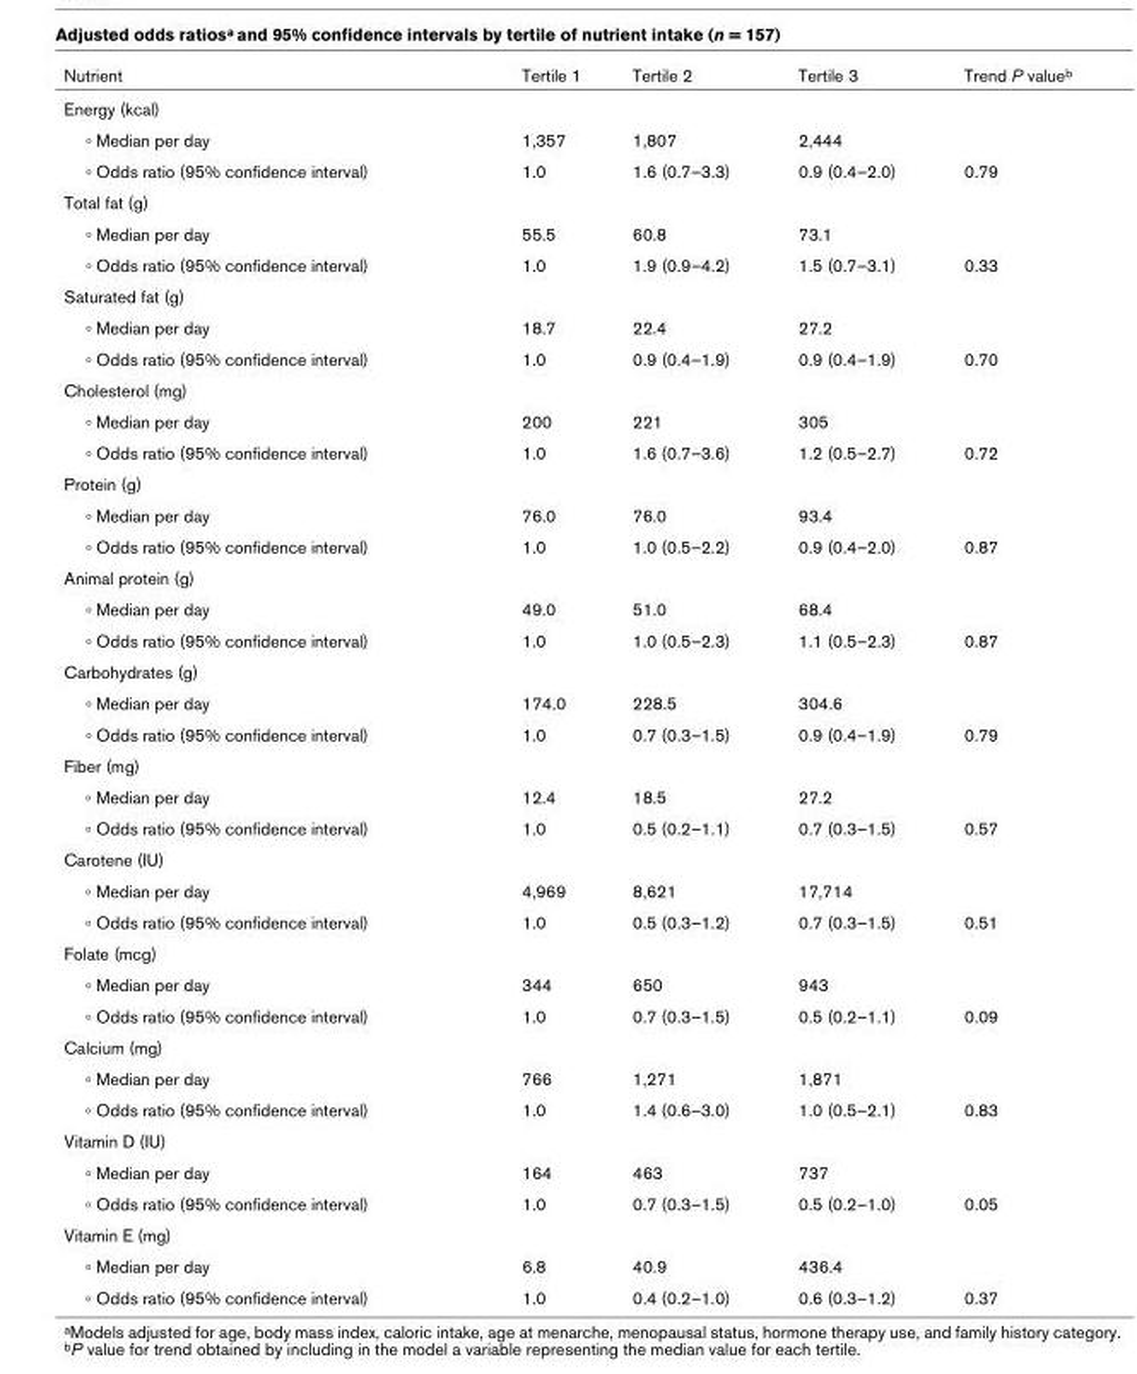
<table><thead><tr><td>Nutrient</td><td>Tertile 1</td><td>Tertile 2</td><td>Tertile 3</td><td>Trend P value<sup>b</sup></td></tr></thead><tbody><tr><td colspan="5">Energy (kcal)</td></tr><tr><td>∘ Median per day</td><td>1,357</td><td>1,807</td><td>2,444</td><td></td></tr><tr><td>∘ Odds ratio (95% confidence interval)</td><td>1.0</td><td>1.6 (0.7–3.3)</td><td>0.9 (0.4–2.0)</td><td>0.79</td></tr><tr><td colspan="5">Total fat (g)</td></tr><tr><td>∘ Median per day</td><td>55.5</td><td>60.8</td><td>73.1</td><td></td></tr><tr><td>∘ Odds ratio (95% confidence interval)</td><td>1.0</td><td>1.9 (0.9–4.2)</td><td>1.5 (0.7–3.1)</td><td>0.33</td></tr><tr><td colspan="5">Saturated fat (g)</td></tr><tr><td>∘ Median per day</td><td>18.7</td><td>22.4</td><td>27.2</td><td></td></tr><tr><td>∘ Odds ratio (95% confidence interval)</td><td>1.0</td><td>0.9 (0.4–1.9)</td><td>0.9 (0.4–1.9)</td><td>0.70</td></tr><tr><td colspan="5">Cholesterol (mg)</td></tr><tr><td>∘ Median per day</td><td>200</td><td>221</td><td>305</td><td></td></tr><tr><td>∘ Odds ratio (95% confidence interval)</td><td>1.0</td><td>1.6 (0.7–3.6)</td><td>1.2 (0.5–2.7)</td><td>0.72</td></tr><tr><td colspan="5">Protein (g)</td></tr><tr><td>∘ Median per day</td><td>76.0</td><td>76.0</td><td>93.4</td><td></td></tr><tr><td>∘ Odds ratio (95% confidence interval)</td><td>1.0</td><td>1.0 (0.5–2.2)</td><td>0.9 (0.4–2.0)</td><td>0.87</td></tr><tr><td colspan="5">Animal protein (g)</td></tr><tr><td>∘ Median per day</td><td>49.0</td><td>51.0</td><td>68.4</td><td></td></tr><tr><td>∘ Odds ratio (95% confidence interval)</td><td>1.0</td><td>1.0 (0.5–2.3)</td><td>1.1 (0.5–2.3)</td><td>0.87</td></tr><tr><td colspan="5">Carbohydrates (g)</td></tr><tr><td>∘ Median per day</td><td>174.0</td><td>228.5</td><td>304.6</td><td></td></tr><tr><td>∘ Odds ratio (95% confidence interval)</td><td>1.0</td><td>0.7 (0.3–1.5)</td><td>0.9 (0.4–1.9)</td><td>0.79</td></tr><tr><td colspan="5">Fiber (mg)</td></tr><tr><td>∘ Median per day</td><td>12.4</td><td>18.5</td><td>27.2</td><td></td></tr><tr><td>∘ Odds ratio (95% confidence interval)</td><td>1.0</td><td>0.5 (0.2–1.1)</td><td>0.7 (0.3–1.5)</td><td>0.57</td></tr><tr><td colspan="5">Carotene (IU)</td></tr><tr><td>∘ Median per day</td><td>4,969</td><td>8,621</td><td>17,714</td><td></td></tr><tr><td>∘ Odds ratio (95% confidence interval)</td><td>1.0</td><td>0.5 (0.3–1.2)</td><td>0.7 (0.3–1.5)</td><td>0.51</td></tr><tr><td colspan="5">Folate (mcg)</td></tr><tr><td>∘ Median per day</td><td>344</td><td>650</td><td>943</td><td></td></tr><tr><td>∘ Odds ratio (95% confidence interval)</td><td>1.0</td><td>0.7 (0.3–1.5)</td><td>0.5 (0.2–1.1)</td><td>0.09</td></tr><tr><td colspan="5">Calcium (mg)</td></tr><tr><td>∘ Median per day</td><td>766</td><td>1,271</td><td>1,871</td><td></td></tr><tr><td>∘ Odds ratio (95% confidence interval)</td><td>1.0</td><td>1.4 (0.6–3.0)</td><td>1.0 (0.5–2.1)</td><td>0.83</td></tr><tr><td colspan="5">Vitamin D (IU)</td></tr><tr><td>∘ Median per day</td><td>164</td><td>463</td><td>737</td><td></td></tr><tr><td>∘ Odds ratio (95% confidence interval)</td><td>1.0</td><td>0.7 (0.3–1.5)</td><td>0.5 (0.2–1.0)</td><td>0.05</td></tr><tr><td colspan="5">Vitamin E (mg)</td></tr><tr><td>∘ Median per day</td><td>6.8</td><td>40.9</td><td>436.4</td><td></td></tr><tr><td>∘ Odds ratio (95% confidence interval)</td><td>1.0</td><td>0.4 (0.2–1.0)</td><td>0.6 (0.3–1.2)</td><td>0.37</td></tr></tbody></table>